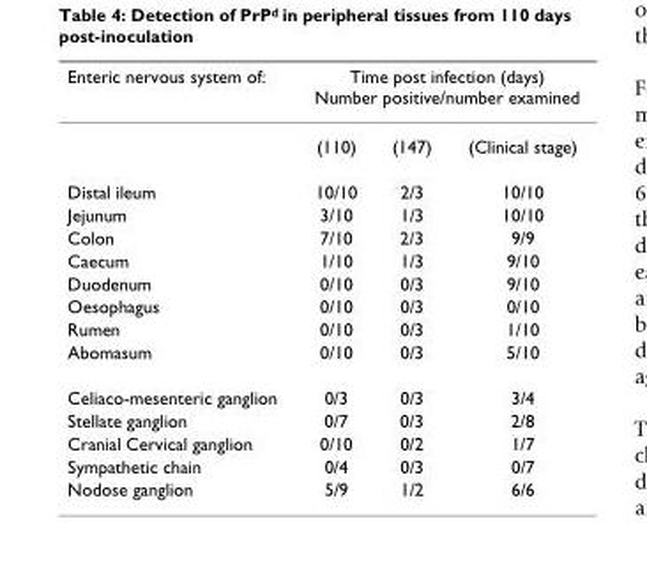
<table><thead><tr><td rowspan="2">Enteric nervous system of:</td><td colspan="3">Time post infection (days) Number positive/number examined</td></tr><tr><td>(110)</td><td>(147)</td><td>(Clinical stage)</td></tr></thead><tbody><tr><td>Distal ileum</td><td>10/10</td><td>2/3</td><td>10/10</td></tr><tr><td>Jejunum</td><td>3/10</td><td>1/3</td><td>10/10</td></tr><tr><td>Colon</td><td>7/10</td><td>2/3</td><td>9/9</td></tr><tr><td>Caecum</td><td>1/10</td><td>1/3</td><td>9/10</td></tr><tr><td>Duodenum</td><td>0/10</td><td>0/3</td><td>9/10</td></tr><tr><td>Oesophagus</td><td>0/10</td><td>0/3</td><td>0/10</td></tr><tr><td>Rumen</td><td>0/10</td><td>0/3</td><td>1/10</td></tr><tr><td>Abomasum</td><td>0/10</td><td>0/3</td><td>5/10</td></tr><tr><td>Celiaco-mesenteric ganglion</td><td>0/3</td><td>0/3</td><td>3/4</td></tr><tr><td>Stellate ganglion</td><td>0/7</td><td>0/3</td><td>2/8</td></tr><tr><td>Cranial Cervical ganglion</td><td>0/10</td><td>0/2</td><td>1/7</td></tr><tr><td>Sympathetic chain</td><td>0/4</td><td>0/3</td><td>0/7</td></tr><tr><td>Nodose ganglion</td><td>5/9</td><td>1/2</td><td>6/6</td></tr></tbody></table>